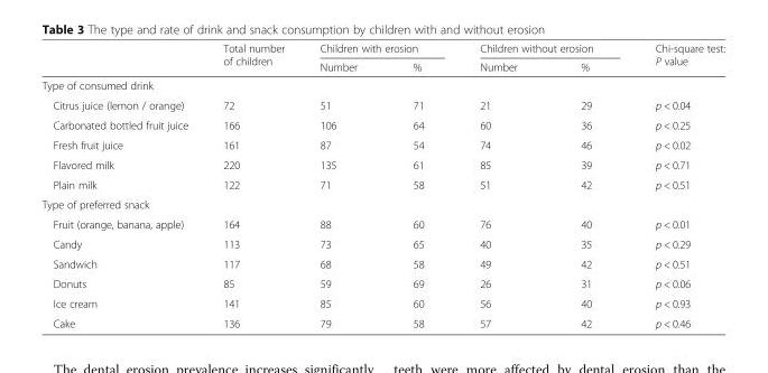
<table><thead><tr><td rowspan="2"></td><td rowspan="2">Total number of children</td><td colspan="2">Children with erosion</td><td colspan="2">Children without erosion</td><td rowspan="2">Chi-square test: P value</td></tr><tr><td>Number</td><td>%</td><td>Number</td><td>%</td></tr></thead><tbody><tr><td colspan="7">Type of consumed drink</td></tr><tr><td>Citrus juice (lemon / orange)</td><td>72</td><td>51</td><td>71</td><td>21</td><td>29</td><td>p &lt; 0.04</td></tr><tr><td>Carbonated bottled fruit juice</td><td>166</td><td>106</td><td>64</td><td>60</td><td>36</td><td>p &lt; 0.25</td></tr><tr><td>Fresh fruit juice</td><td>161</td><td>87</td><td>54</td><td>74</td><td>46</td><td>p &lt; 0.02</td></tr><tr><td>Flavored milk</td><td>220</td><td>135</td><td>61</td><td>85</td><td>39</td><td>p &lt; 0.71</td></tr><tr><td>Plain milk</td><td>122</td><td>71</td><td>58</td><td>51</td><td>42</td><td>p &lt; 0.51</td></tr><tr><td colspan="7">Type of preferred snack</td></tr><tr><td>Fruit (orange, banana, apple)</td><td>164</td><td>88</td><td>60</td><td>76</td><td>40</td><td>p &lt; 0.01</td></tr><tr><td>Candy</td><td>113</td><td>73</td><td>65</td><td>40</td><td>35</td><td>p &lt; 0.29</td></tr><tr><td>Sandwich</td><td>117</td><td>68</td><td>58</td><td>49</td><td>42</td><td>p &lt; 0.51</td></tr><tr><td>Donuts</td><td>85</td><td>59</td><td>69</td><td>26</td><td>31</td><td>p &lt; 0.06</td></tr><tr><td>Ice cream</td><td>141</td><td>85</td><td>60</td><td>56</td><td>40</td><td>p &lt; 0.93</td></tr><tr><td>Cake</td><td>136</td><td>79</td><td>58</td><td>57</td><td>42</td><td>p &lt; 0.46</td></tr></tbody></table>